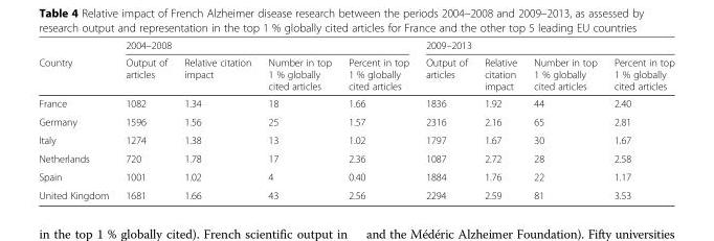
<table><thead><tr><td rowspan="2">Country</td><td colspan="4">2004–2008</td><td colspan="4">2009–2013</td></tr><tr><td>Output of articles</td><td>Relative citation impact</td><td>Number in top 1 % globally cited articles</td><td>Percent in top 1 % globally cited articles</td><td>Output of articles</td><td>Relative citation impact</td><td>Number in top 1 % globally cited articles</td><td>Percent in top 1 % globally cited articles</td></tr></thead><tbody><tr><td>France</td><td>1082</td><td>1.34</td><td>18</td><td>1.66</td><td>1836</td><td>1.92</td><td>44</td><td>2.40</td></tr><tr><td>Germany</td><td>1596</td><td>1.56</td><td>25</td><td>1.57</td><td>2316</td><td>2.16</td><td>65</td><td>2.81</td></tr><tr><td>Italy</td><td>1274</td><td>1.38</td><td>13</td><td>1.02</td><td>1797</td><td>1.67</td><td>30</td><td>1.67</td></tr><tr><td>Netherlands</td><td>720</td><td>1.78</td><td>17</td><td>2.36</td><td>1087</td><td>2.72</td><td>28</td><td>2.58</td></tr><tr><td>Spain</td><td>1001</td><td>1.02</td><td>4</td><td>0.40</td><td>1884</td><td>1.76</td><td>22</td><td>1.17</td></tr><tr><td>United Kingdom</td><td>1681</td><td>1.66</td><td>43</td><td>2.56</td><td>2294</td><td>2.59</td><td>81</td><td>3.53</td></tr></tbody></table>